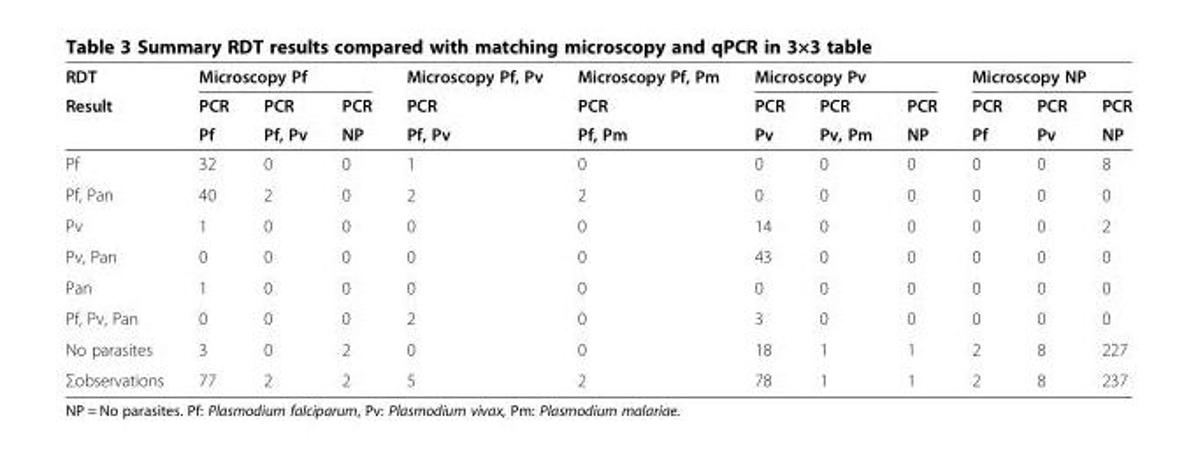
<table><thead><tr><td rowspan="3">RDT Result</td><td colspan="3">Microscopy Pf</td><td rowspan="3">Microscopy Pf, Pv PCR Pf, Pv</td><td rowspan="3">Microscopy Pf, Pm PCR Pf, Pm</td><td colspan="3">Microscopy Pv</td><td colspan="3">Microscopy NP</td></tr><tr><td rowspan="2">PCR Pf</td><td rowspan="2">PCR Pf, Pv</td><td rowspan="2">PCR NP</td><td rowspan="2">PCR Pv</td><td rowspan="2">PCR Pv, Pm</td><td rowspan="2">PCR NP</td><td rowspan="2">PCR Pf</td><td rowspan="2">PCR Pv</td><td rowspan="2">PCR NP</td></tr><tr></tr></thead><tbody><tr><td>Pf</td><td>32</td><td>0</td><td>0</td><td>1</td><td>0</td><td>0</td><td>0</td><td>0</td><td>0</td><td>0</td><td>8</td></tr><tr><td>Pf, Pan</td><td>40</td><td>2</td><td>0</td><td>2</td><td>2</td><td>0</td><td>0</td><td>0</td><td>0</td><td>0</td><td>0</td></tr><tr><td>Pv</td><td>1</td><td>0</td><td>0</td><td>0</td><td>0</td><td>14</td><td>0</td><td>0</td><td>0</td><td>0</td><td>2</td></tr><tr><td>Pv, Pan</td><td>0</td><td>0</td><td>0</td><td>0</td><td>0</td><td>43</td><td>0</td><td>0</td><td>0</td><td>0</td><td>0</td></tr><tr><td>Pan</td><td>1</td><td>0</td><td>0</td><td>0</td><td>0</td><td>0</td><td>0</td><td>0</td><td>0</td><td>0</td><td>0</td></tr><tr><td>Pf, Pv, Pan</td><td>0</td><td>0</td><td>0</td><td>2</td><td>0</td><td>3</td><td>0</td><td>0</td><td>0</td><td>0</td><td>0</td></tr><tr><td>No parasites</td><td>3</td><td>0</td><td>2</td><td>0</td><td>0</td><td>18</td><td>1</td><td>1</td><td>2</td><td>8</td><td>227</td></tr><tr><td>Σobservations</td><td>77</td><td>2</td><td>2</td><td>5</td><td>2</td><td>78</td><td>1</td><td>1</td><td>2</td><td>8</td><td>237</td></tr></tbody></table>